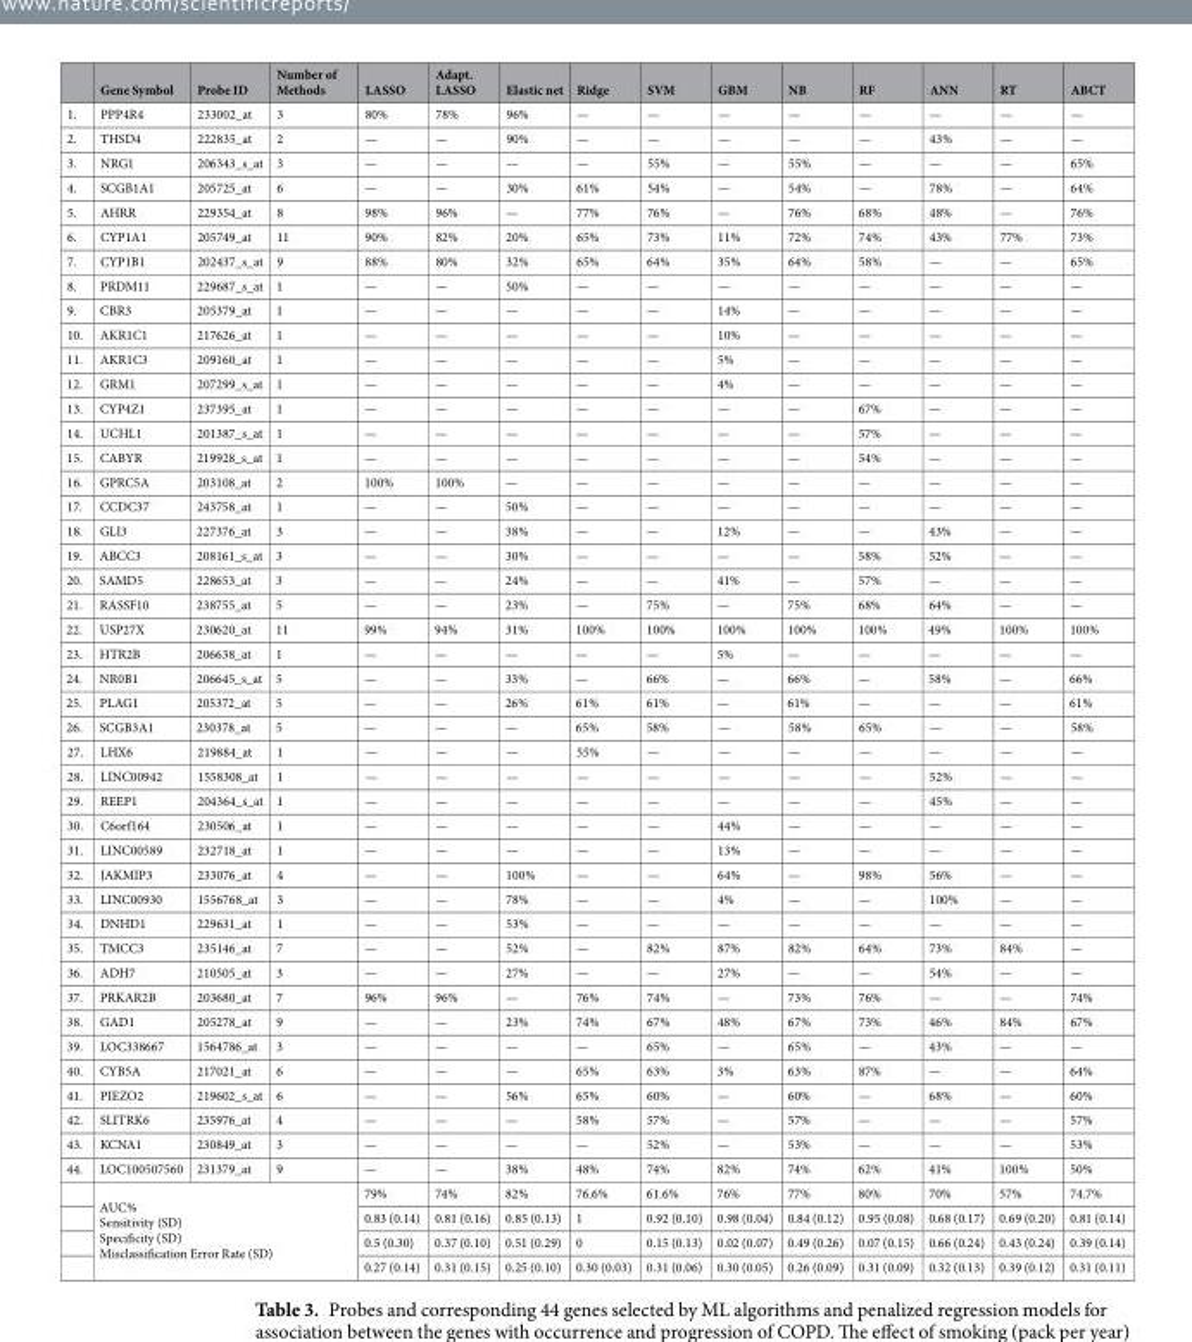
<table><thead><tr><td></td><td>Gene Symbol</td><td>Probe ID</td><td>Number of Methods</td><td>LASSO</td><td>Adapt. LASSO</td><td>Elastic net</td><td>Ridge</td><td>SVM</td><td>GBM</td><td>NB</td><td>RF</td><td>ANN</td><td>RT</td><td>ABCT</td></tr></thead><tbody><tr><td>1.</td><td>PPP4R4</td><td>233002_at</td><td>3</td><td>80%</td><td>78%</td><td>96%</td><td>—</td><td>—</td><td>—</td><td>—</td><td>—</td><td>—</td><td>—</td><td>—</td></tr><tr><td>2.</td><td>THSD4</td><td>222835_at</td><td>2</td><td>—</td><td>—</td><td>90%</td><td>—</td><td>—</td><td>—</td><td>—</td><td>—</td><td>43%</td><td>—</td><td>—</td></tr><tr><td>3.</td><td>NRG1</td><td>206343_s_at</td><td>3</td><td>—</td><td>—</td><td>—</td><td>—</td><td>55%</td><td>—</td><td>55%</td><td>—</td><td>—</td><td>—</td><td>65%</td></tr><tr><td>4.</td><td>SCGB1A1</td><td>205725_at</td><td>6</td><td>—</td><td>—</td><td>30%</td><td>61%</td><td>54%</td><td>—</td><td>54%</td><td>—</td><td>78%</td><td>—</td><td>64%</td></tr><tr><td>5.</td><td>AHRR</td><td>229354_at</td><td>8</td><td>98%</td><td>96%</td><td>—</td><td>77%</td><td>76%</td><td>—</td><td>76%</td><td>68%</td><td>48%</td><td>—</td><td>76%</td></tr><tr><td>6.</td><td>CYP1A1</td><td>205749_at</td><td>11</td><td>90%</td><td>82%</td><td>20%</td><td>65%</td><td>73%</td><td>11%</td><td>72%</td><td>74%</td><td>43%</td><td>77%</td><td>73%</td></tr><tr><td>7.</td><td>CYP1B1</td><td>202437_s_at</td><td>9</td><td>88%</td><td>80%</td><td>32%</td><td>65%</td><td>64%</td><td>35%</td><td>64%</td><td>58%</td><td>—</td><td>—</td><td>65%</td></tr><tr><td>8.</td><td>PRDM11</td><td>229687_s_at</td><td>1</td><td>—</td><td>—</td><td>50%</td><td>—</td><td>—</td><td>—</td><td>—</td><td>—</td><td>—</td><td>—</td><td>—</td></tr><tr><td>9.</td><td>CBR3</td><td>205379_at</td><td>1</td><td>—</td><td>—</td><td>—</td><td>—</td><td>—</td><td>14%</td><td>—</td><td>—</td><td>—</td><td>—</td><td>—</td></tr><tr><td>10.</td><td>AKR1C1</td><td>217626_at</td><td>1</td><td>—</td><td>—</td><td>—</td><td>—</td><td>—</td><td>10%</td><td>—</td><td>—</td><td>—</td><td>—</td><td>—</td></tr><tr><td>11.</td><td>AKR1C3</td><td>209160_at</td><td>1</td><td>—</td><td>—</td><td>—</td><td>—</td><td>—</td><td>5%</td><td>—</td><td>—</td><td>—</td><td>—</td><td>—</td></tr><tr><td>12.</td><td>GRM1</td><td>207299_s_at</td><td>1</td><td>—</td><td>—</td><td>—</td><td>—</td><td>—</td><td>4%</td><td>—</td><td>—</td><td>—</td><td>—</td><td>—</td></tr><tr><td>13.</td><td>CYP4Z1</td><td>237395_at</td><td>1</td><td>—</td><td>—</td><td>—</td><td>—</td><td>—</td><td>—</td><td>—</td><td>67%</td><td>—</td><td>—</td><td>—</td></tr><tr><td>14.</td><td>UCHL1</td><td>201387_s_at</td><td>1</td><td>—</td><td>—</td><td>—</td><td>—</td><td>—</td><td>—</td><td>—</td><td>57%</td><td>—</td><td>—</td><td>—</td></tr><tr><td>15.</td><td>CABYR</td><td>219928_s_at</td><td>1</td><td>—</td><td>—</td><td>—</td><td>—</td><td>—</td><td>—</td><td>—</td><td>54%</td><td>—</td><td>—</td><td>—</td></tr><tr><td>16.</td><td>GPRC5A</td><td>203108_at</td><td>2</td><td>100%</td><td>100%</td><td>—</td><td>—</td><td>—</td><td>—</td><td>—</td><td>—</td><td>—</td><td>—</td><td>—</td></tr><tr><td>17.</td><td>CCDC37</td><td>243758_at</td><td>1</td><td>—</td><td>—</td><td>50%</td><td>—</td><td>—</td><td>—</td><td>—</td><td>—</td><td>—</td><td>—</td><td>—</td></tr><tr><td>18.</td><td>GLI3</td><td>227376_at</td><td>3</td><td>—</td><td>—</td><td>38%</td><td>—</td><td>—</td><td>12%</td><td>—</td><td>—</td><td>43%</td><td>—</td><td>—</td></tr><tr><td>19.</td><td>ABCC3</td><td>208161_s_at</td><td>3</td><td>—</td><td>—</td><td>30%</td><td>—</td><td>—</td><td>—</td><td>—</td><td>58%</td><td>52%</td><td>—</td><td>—</td></tr><tr><td>20.</td><td>SAMD5</td><td>228653_at</td><td>3</td><td>—</td><td>—</td><td>24%</td><td>—</td><td>—</td><td>41%</td><td>—</td><td>57%</td><td>—</td><td>—</td><td>—</td></tr><tr><td>21.</td><td>RASSF10</td><td>238755_at</td><td>5</td><td>—</td><td>—</td><td>23%</td><td>—</td><td>75%</td><td>—</td><td>75%</td><td>68%</td><td>64%</td><td>—</td><td>—</td></tr><tr><td>22.</td><td>USP27X</td><td>230620_at</td><td>11</td><td>99%</td><td>94%</td><td>31%</td><td>100%</td><td>100%</td><td>100%</td><td>100%</td><td>100%</td><td>49%</td><td>100%</td><td>100%</td></tr><tr><td>23.</td><td>HTR2B</td><td>206638_at</td><td>1</td><td>—</td><td>—</td><td>—</td><td>—</td><td>—</td><td>5%</td><td>—</td><td>—</td><td>—</td><td>—</td><td>—</td></tr><tr><td>24.</td><td>NR0B1</td><td>206645_s_at</td><td>5</td><td>—</td><td>—</td><td>33%</td><td>—</td><td>66%</td><td>—</td><td>66%</td><td>—</td><td>58%</td><td>—</td><td>66%</td></tr><tr><td>25.</td><td>PLAG1</td><td>205372_at</td><td>5</td><td>—</td><td>—</td><td>26%</td><td>61%</td><td>61%</td><td>—</td><td>61%</td><td>—</td><td>—</td><td>—</td><td>61%</td></tr><tr><td>26.</td><td>SCGB3A1</td><td>230378_at</td><td>5</td><td>—</td><td>—</td><td>—</td><td>65%</td><td>58%</td><td>—</td><td>58%</td><td>65%</td><td>—</td><td>—</td><td>58%</td></tr><tr><td>27.</td><td>LHX6</td><td>219884_at</td><td>1</td><td>—</td><td>—</td><td>—</td><td>55%</td><td>—</td><td>—</td><td>—</td><td>—</td><td>—</td><td>—</td><td>—</td></tr><tr><td>28.</td><td>LINC00942</td><td>1558308_at</td><td>1</td><td>—</td><td>—</td><td>—</td><td>—</td><td>—</td><td>—</td><td>—</td><td>—</td><td>52%</td><td>—</td><td>—</td></tr><tr><td>29.</td><td>REEP1</td><td>204364_s_at</td><td>1</td><td>—</td><td>—</td><td>—</td><td>—</td><td>—</td><td>—</td><td>—</td><td>—</td><td>45%</td><td>—</td><td>—</td></tr><tr><td>30.</td><td>C6orf164</td><td>230506_at</td><td>1</td><td>—</td><td>—</td><td>—</td><td>—</td><td>—</td><td>44%</td><td>—</td><td>—</td><td>—</td><td>—</td><td>—</td></tr><tr><td>31.</td><td>LINC00589</td><td>232718_at</td><td>1</td><td>—</td><td>—</td><td>—</td><td>—</td><td>—</td><td>13%</td><td>—</td><td>—</td><td>—</td><td>—</td><td>—</td></tr><tr><td>32.</td><td>JAKMIP3</td><td>233076_at</td><td>4</td><td>—</td><td>—</td><td>100%</td><td>—</td><td>—</td><td>64%</td><td>—</td><td>98%</td><td>56%</td><td>—</td><td>—</td></tr><tr><td>33.</td><td>LINC00930</td><td>1556768_at</td><td>3</td><td>—</td><td>—</td><td>78%</td><td>—</td><td>—</td><td>4%</td><td>—</td><td>—</td><td>100%</td><td>—</td><td>—</td></tr><tr><td>34.</td><td>DNHD1</td><td>229631_at</td><td>1</td><td>—</td><td>—</td><td>53%</td><td>—</td><td>—</td><td>—</td><td>—</td><td>—</td><td>—</td><td>—</td><td>—</td></tr><tr><td>35.</td><td>TMCC3</td><td>235146_at</td><td>7</td><td>—</td><td>—</td><td>52%</td><td>—</td><td>82%</td><td>87%</td><td>82%</td><td>64%</td><td>73%</td><td>84%</td><td>—</td></tr><tr><td>36.</td><td>ADH7</td><td>210505_at</td><td>3</td><td>—</td><td>—</td><td>27%</td><td>—</td><td>—</td><td>27%</td><td>—</td><td>—</td><td>54%</td><td>—</td><td>—</td></tr><tr><td>37.</td><td>PRKAR2B</td><td>203680_at</td><td>7</td><td>96%</td><td>96%</td><td>—</td><td>76%</td><td>74%</td><td>—</td><td>73%</td><td>76%</td><td>—</td><td>—</td><td>74%</td></tr><tr><td>38.</td><td>GAD1</td><td>205278_at</td><td>9</td><td>—</td><td>—</td><td>23%</td><td>74%</td><td>67%</td><td>48%</td><td>67%</td><td>73%</td><td>46%</td><td>84%</td><td>67%</td></tr><tr><td>39.</td><td>LOC338667</td><td>1564786_at</td><td>3</td><td>—</td><td>—</td><td>—</td><td>—</td><td>65%</td><td>—</td><td>65%</td><td>—</td><td>43%</td><td>—</td><td>—</td></tr><tr><td>40.</td><td>CYB5A</td><td>217021_at</td><td>6</td><td>—</td><td>—</td><td>—</td><td>65%</td><td>63%</td><td>3%</td><td>63%</td><td>87%</td><td>—</td><td>—</td><td>64%</td></tr><tr><td>41.</td><td>PIEZO2</td><td>219602_s_at</td><td>6</td><td>—</td><td>—</td><td>56%</td><td>65%</td><td>60%</td><td>—</td><td>60%</td><td>—</td><td>68%</td><td>—</td><td>60%</td></tr><tr><td>42.</td><td>SLITRK6</td><td>235976_at</td><td>4</td><td>—</td><td>—</td><td>—</td><td>58%</td><td>57%</td><td>—</td><td>57%</td><td>—</td><td>—</td><td>—</td><td>57%</td></tr><tr><td>43.</td><td>KCNA1</td><td>230849_at</td><td>3</td><td>—</td><td>—</td><td>—</td><td>—</td><td>52%</td><td>—</td><td>53%</td><td>—</td><td>—</td><td>—</td><td>53%</td></tr><tr><td rowspan="5">44.</td><td>LOC100507560</td><td>231379_at</td><td>9</td><td>—</td><td>—</td><td>38%</td><td>48%</td><td>74%</td><td>82%</td><td>74%</td><td>62%</td><td>41%</td><td>100%</td><td>50%</td></tr><tr><td rowspan="4" colspan="3">AUC% Sensitivity (SD) Specificity (SD) Misclassification Error Rate (SD)</td><td>79%</td><td>74%</td><td>82%</td><td>76.6%</td><td>61.6%</td><td>76%</td><td>77%</td><td>80%</td><td>70%</td><td>57%</td><td>74.7%</td></tr><tr><td>0.83 (0.14)</td><td>0.81 (0.16)</td><td>0.85 (0.13)</td><td>1</td><td>0.92 (0.10)</td><td>0.98 (0.04)</td><td>0.84 (0.12)</td><td>0.95 (0.08)</td><td>0.68 (0.17)</td><td>0.69 (0.20)</td><td>0.81 (0.14)</td></tr><tr><td>0.5 (0.30)</td><td>0.37 (0.10)</td><td>0.51 (0.29)</td><td>0</td><td>0.15 (0.13)</td><td>0.02 (0.07)</td><td>0.49 (0.26)</td><td>0.07 (0.15)</td><td>0.66 (0.24)</td><td>0.43 (0.24)</td><td>0.39 (0.14)</td></tr><tr><td>0.27 (0.14)</td><td>0.31 (0.15)</td><td>0.25 (0.10)</td><td>0.30 (0.03)</td><td>0.31 (0.06)</td><td>0.30 (0.05)</td><td>0.26 (0.09)</td><td>0.31 (0.09)</td><td>0.32 (0.13)</td><td>0.39 (0.12)</td><td>0.31 (0.11)</td></tr></tbody></table>